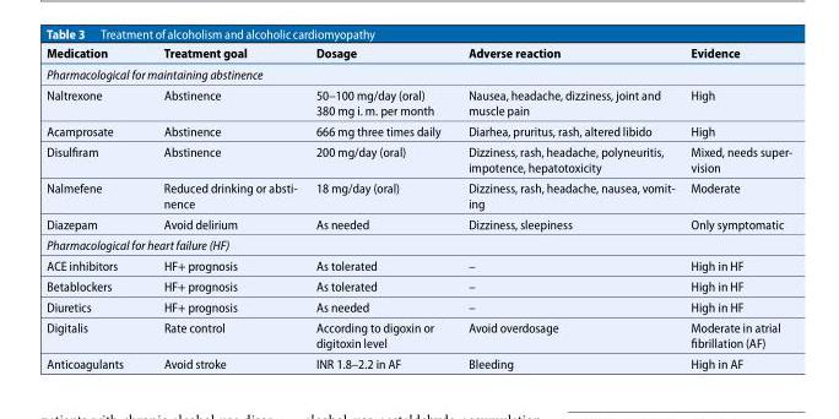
<table><thead><tr><td>Medication</td><td>Treatment goal</td><td>Dosage</td><td>Adverse reaction</td><td>Evidence</td></tr></thead><tbody><tr><td colspan="5">Pharmacological for maintaining abstinence</td></tr><tr><td>Naltrexone</td><td>Abstinence</td><td>50–100 mg/day (oral) 380 mg i. m. per month</td><td>Nausea, headache, dizziness, joint and muscle pain</td><td>High</td></tr><tr><td>Acamprosate</td><td>Abstinence</td><td>666 mg three times daily</td><td>Diarhea, pruritus, rash, altered libido</td><td>High</td></tr><tr><td>Disulfiram</td><td>Abstinence</td><td>200 mg/day (oral)</td><td>Dizziness, rash, headache, polyneuritis, impotence,hepatotoxicity</td><td>Mixed, needs super- vision</td></tr><tr><td>Nalmefene</td><td>Reduced drinking or absti- nence</td><td>18 mg/day (oral)</td><td>Dizziness, rash, headache, nausea, vomit- ing</td><td>Moderate</td></tr><tr><td>Diazepam</td><td>Avoid delirium</td><td>As needed</td><td>Dizziness, sleepiness</td><td>Only symptomatic</td></tr><tr><td colspan="5">Pharmacological for heart failure (HF)</td></tr><tr><td>ACE inhibitors</td><td>HF+ prognosis</td><td>As tolerated</td><td>–</td><td>High in HF</td></tr><tr><td>Betablockers</td><td>HF+ prognosis</td><td>As tolerated</td><td>–</td><td>High in HF</td></tr><tr><td>Diuretics</td><td>HF+ prognosis</td><td>As needed</td><td>–</td><td>High in HF</td></tr><tr><td>Digitalis</td><td>Rate control</td><td>According to digoxin or digitoxin level</td><td>Avoid overdosage</td><td>Moderate in atrial fibrillation (AF)</td></tr><tr><td>Anticoagulants</td><td>Avoid stroke</td><td>INR 1.8–2.2 in AF</td><td>Bleeding</td><td>High in AF</td></tr></tbody></table>